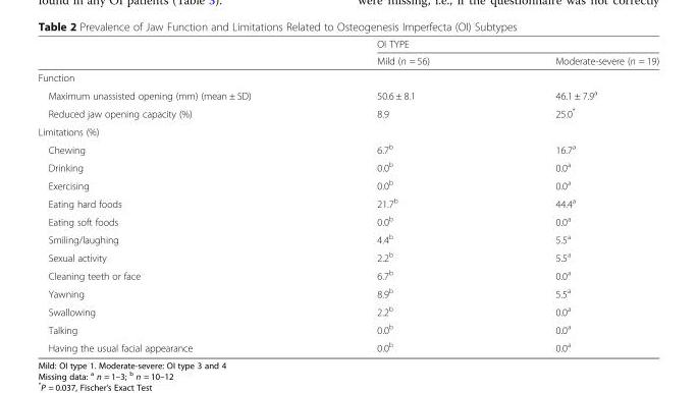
<table><thead><tr><td rowspan="2"></td><td colspan="2">OI TYPE</td></tr><tr><td>Mild (n = 56)</td><td>Moderate-severe (n = 19)</td></tr></thead><tbody><tr><td colspan="3">Function</td></tr><tr><td>Maximum unassisted opening (mm) (mean ± SD)</td><td>50.6 ± 8.1</td><td>46.1 ± 7.9<sup>a</sup></td></tr><tr><td>Reduced jaw opening capacity (%)</td><td>8.9</td><td>25.0*</td></tr><tr><td colspan="3">Limitations (%)</td></tr><tr><td>Chewing</td><td>6.7<sup>b</sup></td><td>16.7<sup>a</sup></td></tr><tr><td>Drinking</td><td>0.0<sup>b</sup></td><td>0.0<sup>a</sup></td></tr><tr><td>Exercising</td><td>0.0<sup>b</sup></td><td>0.0<sup>a</sup></td></tr><tr><td>Eating hard foods</td><td>21.7<sup>b</sup></td><td>44.4<sup>a</sup></td></tr><tr><td>Eating soft foods</td><td>0.0<sup>b</sup></td><td>0.0<sup>a</sup></td></tr><tr><td>Smiling/laughing</td><td>4.4<sup>b</sup></td><td>5.5<sup>a</sup></td></tr><tr><td>Sexual activity</td><td>2.2<sup>b</sup></td><td>5.5<sup>a</sup></td></tr><tr><td>Cleaning teeth or face</td><td>6.7<sup>b</sup></td><td>0.0<sup>a</sup></td></tr><tr><td>Yawning</td><td>8.9<sup>b</sup></td><td>5.5<sup>a</sup></td></tr><tr><td>Swallowing</td><td>2.2<sup>b</sup></td><td>0.0<sup>a</sup></td></tr><tr><td>Talking</td><td>0.0<sup>b</sup></td><td>0.0<sup>a</sup></td></tr><tr><td>Having the usual facial appearance</td><td>0.0<sup>b</sup></td><td>0.0<sup>a</sup></td></tr></tbody></table>